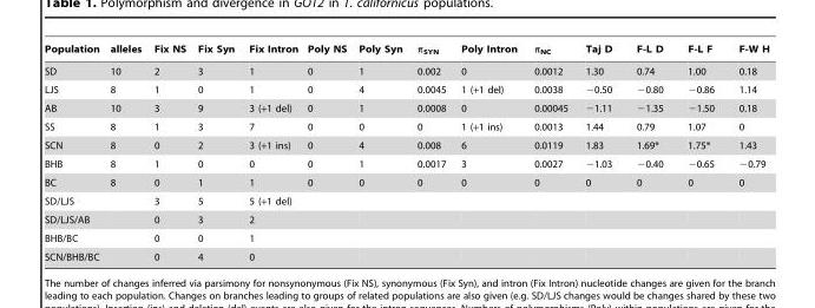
<table><thead><tr><td>Population</td><td>alleles</td><td>Fix NS</td><td>Fix Syn</td><td>Fix Intron</td><td>Poly NS</td><td>Poly Syn</td><td>π<sub>SYN</sub></td><td>Poly Intron</td><td>π<sub>NC</sub></td><td>Taj D</td><td>F-L D</td><td>F-L F</td><td>F-W H</td></tr></thead><tbody><tr><td>SD</td><td>10</td><td>2</td><td>3</td><td>1</td><td>0</td><td>1</td><td>0.002</td><td>0</td><td>0.0012</td><td>1.30</td><td>0.74</td><td>1.00</td><td>0.18</td></tr><tr><td>LJS</td><td>8</td><td>1</td><td>0</td><td>1</td><td>0</td><td>4</td><td>0.0045</td><td>1 (+1 del)</td><td>0.0038</td><td>−0.50</td><td>−0.80</td><td>−0.86</td><td>1.14</td></tr><tr><td>AB</td><td>10</td><td>3</td><td>9</td><td>3 (+1 del)</td><td>0</td><td>1</td><td>0.0008</td><td>0</td><td>0.00045</td><td>−1.11</td><td>−1.35</td><td>−1.50</td><td>0.18</td></tr><tr><td>SS</td><td>8</td><td>1</td><td>3</td><td>7</td><td>0</td><td>0</td><td>0</td><td>1 (+1 ins)</td><td>0.0013</td><td>1.44</td><td>0.79</td><td>1.07</td><td>0</td></tr><tr><td>SCN</td><td>8</td><td>0</td><td>2</td><td>3 (+1 ins)</td><td>0</td><td>4</td><td>0.008</td><td>6</td><td>0.0119</td><td>1.83</td><td>1.69*</td><td>1.75*</td><td>1.43</td></tr><tr><td>BHB</td><td>8</td><td>1</td><td>0</td><td>0</td><td>0</td><td>1</td><td>0.0017</td><td>3</td><td>0.0027</td><td>−1.03</td><td>−0.40</td><td>−0.65</td><td>−0.79</td></tr><tr><td>BC</td><td>8</td><td>0</td><td>1</td><td>1</td><td>0</td><td>0</td><td>0</td><td>0</td><td>0</td><td>0</td><td>0</td><td>0</td><td>0</td></tr><tr><td>SD/LJS</td><td></td><td>3</td><td>5</td><td>5 (+1 del)</td><td></td><td></td><td></td><td></td><td></td><td></td><td></td><td></td><td></td></tr><tr><td>SD/LJS/AB</td><td></td><td>0</td><td>3</td><td>2</td><td></td><td></td><td></td><td></td><td></td><td></td><td></td><td></td><td></td></tr><tr><td>BHB/BC</td><td></td><td>0</td><td>0</td><td>1</td><td></td><td></td><td></td><td></td><td></td><td></td><td></td><td></td><td></td></tr><tr><td>SCN/BHB/BC</td><td></td><td>0</td><td>4</td><td>0</td><td></td><td></td><td></td><td></td><td></td><td></td><td></td><td></td><td></td></tr></tbody></table>